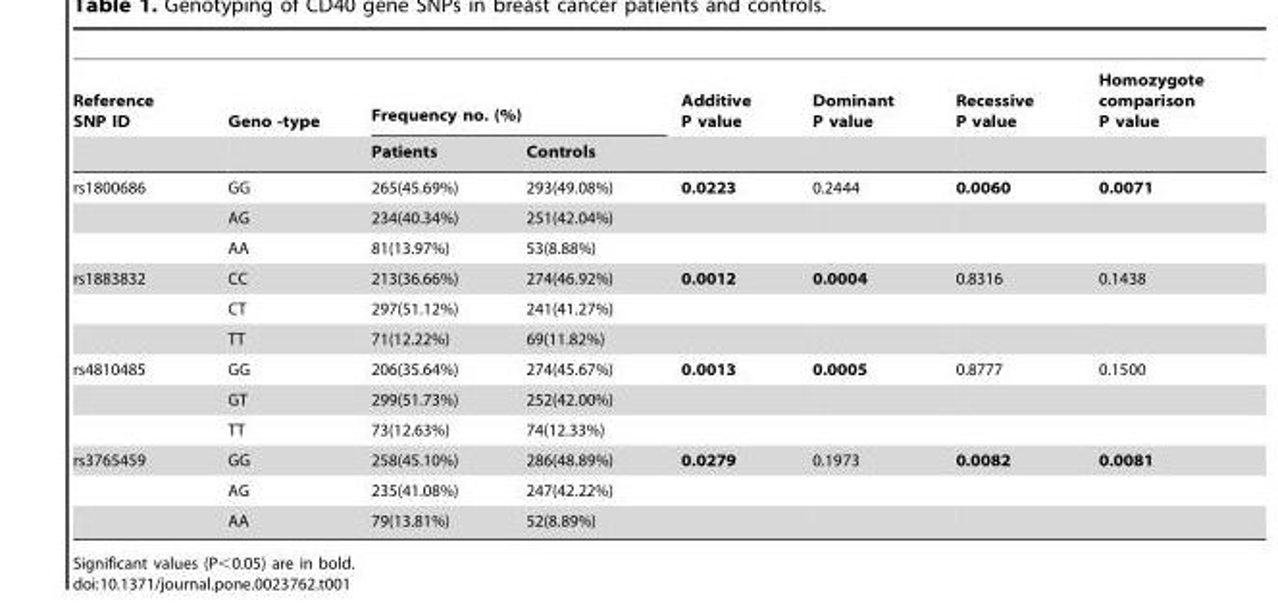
<table><thead><tr><td rowspan="2">Reference SNP ID</td><td rowspan="2">Geno -type</td><td colspan="2">Frequency no. (%)</td><td rowspan="2">Additive P value</td><td rowspan="2">Dominant P value</td><td rowspan="2">Recessive P value</td><td rowspan="2">Homozygote comparison P value</td></tr><tr><td>Patients</td><td>Controls</td></tr></thead><tbody><tr><td rowspan="3">rs1800686</td><td>GG</td><td>265(45.69%)</td><td>293(49.08%)</td><td>0.0223</td><td>0.2444</td><td>0.0060</td><td>0.0071</td></tr><tr><td>AG</td><td>234(40.34%)</td><td>251(42.04%)</td><td></td><td></td><td></td><td></td></tr><tr><td>AA</td><td>81(13.97%)</td><td>53(8.88%)</td><td></td><td></td><td></td><td></td></tr><tr><td rowspan="3">rs1883832</td><td>CC</td><td>213(36.66%)</td><td>274(46.92%)</td><td>0.0012</td><td>0.0004</td><td>0.8316</td><td>0.1438</td></tr><tr><td>CT</td><td>297(51.12%)</td><td>241(41.27%)</td><td></td><td></td><td></td><td></td></tr><tr><td>TT</td><td>71(12.22%)</td><td>69(11.82%)</td><td></td><td></td><td></td><td></td></tr><tr><td rowspan="3">rs4810485</td><td>GG</td><td>206(35.64%)</td><td>274(45.67%)</td><td>0.0013</td><td>0.0005</td><td>0.8777</td><td>0.1500</td></tr><tr><td>GT</td><td>299(51.73%)</td><td>252(42.00%)</td><td></td><td></td><td></td><td></td></tr><tr><td>TT</td><td>73(12.63%)</td><td>74(12.33%)</td><td></td><td></td><td></td><td></td></tr><tr><td rowspan="3">rs3765459</td><td>GG</td><td>258(45.10%)</td><td>286(48.89%)</td><td>0.0279</td><td>0.1973</td><td>0.0082</td><td>0.0081</td></tr><tr><td>AG</td><td>235(41.08%)</td><td>247(42.22%)</td><td></td><td></td><td></td><td></td></tr><tr><td>AA</td><td>79(13.81%)</td><td>52(8.89%)</td><td></td><td></td><td></td><td></td></tr></tbody></table>